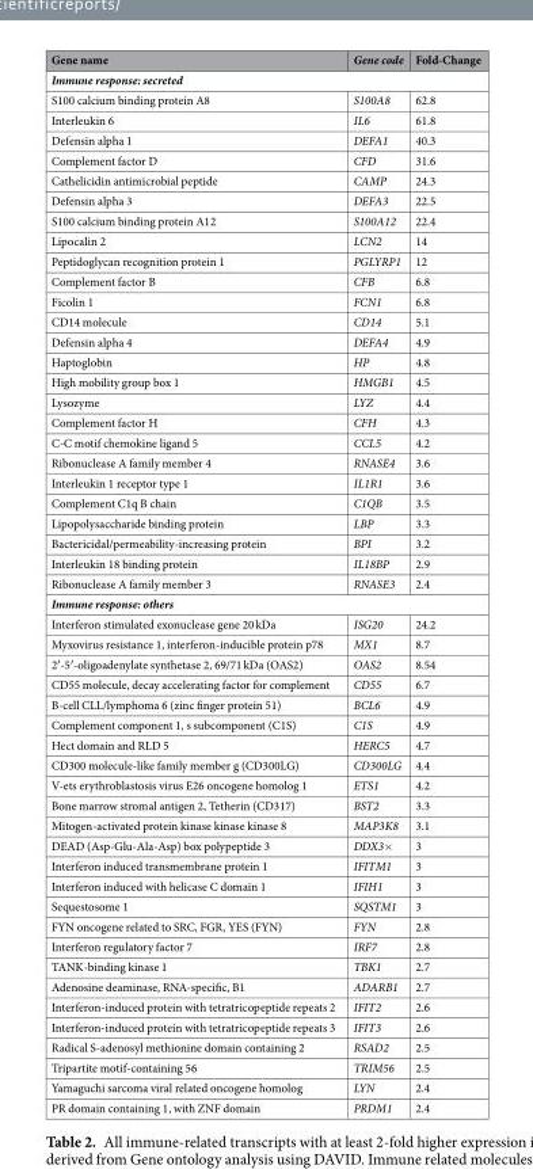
<table><thead><tr><td>Gene name</td><td>Gene code</td><td>Fold-Change</td></tr></thead><tbody><tr><td colspan="3">Immune response: secreted</td></tr><tr><td>S100 calcium binding protein A8</td><td>S100A8</td><td>62.8</td></tr><tr><td>Interleukin 6</td><td>IL6</td><td>61.8</td></tr><tr><td>Defensin alpha 1</td><td>DEFA1</td><td>40.3</td></tr><tr><td>Complement factor D</td><td>CFD</td><td>31.6</td></tr><tr><td>Cathelicidin antimicrobial peptide</td><td>CAMP</td><td>24.3</td></tr><tr><td>Defensin alpha 3</td><td>DEFA3</td><td>22.5</td></tr><tr><td>S100 calcium binding protein A12</td><td>S100A12</td><td>22.4</td></tr><tr><td>Lipocalin 2</td><td>LCN2</td><td>14</td></tr><tr><td>Peptidoglycan recognition protein 1</td><td>PGLYRP1</td><td>12</td></tr><tr><td>Complement factor B</td><td>CFB</td><td>6.8</td></tr><tr><td>Ficolin 1</td><td>FCN1</td><td>6.8</td></tr><tr><td>CD14 molecule</td><td>CD14</td><td>5.1</td></tr><tr><td>Defensin alpha 4</td><td>DEFA4</td><td>4.9</td></tr><tr><td>Haptoglobin</td><td>HP</td><td>4.8</td></tr><tr><td>High mobility group box 1</td><td>HMGB1</td><td>4.5</td></tr><tr><td>Lysozyme</td><td>LYZ</td><td>4.4</td></tr><tr><td>Complement factor H</td><td>CFH</td><td>4.3</td></tr><tr><td>C-C motif chemokine ligand 5</td><td>CCL5</td><td>4.2</td></tr><tr><td>Ribonuclease A family member 4</td><td>RNASE4</td><td>3.6</td></tr><tr><td>Interleukin 1 receptor type 1</td><td>IL1R1</td><td>3.6</td></tr><tr><td>Complement C1q B chain</td><td>C1QB</td><td>3.5</td></tr><tr><td>Lipopolysaccharide binding protein</td><td>LBP</td><td>3.3</td></tr><tr><td>Bactericidal/permeability-increasing protein</td><td>BPI</td><td>3.2</td></tr><tr><td>Interleukin 18 binding protein</td><td>IL18BP</td><td>2.9</td></tr><tr><td>Ribonuclease A family member 3</td><td>RNASE3</td><td>2.4</td></tr><tr><td colspan="3">Immune response: others</td></tr><tr><td>Interferon stimulated exonuclease gene 20 kDa</td><td>ISG20</td><td>24.2</td></tr><tr><td>Myxovirus resistance 1, interferon-inducible protein p78</td><td>MX1</td><td>8.7</td></tr><tr><td>2′-5′-oligoadenylate synthetase 2, 69/71 kDa (OAS2)</td><td>OAS2</td><td>8.54</td></tr><tr><td>CD55 molecule, decay accelerating factor for complement</td><td>CD55</td><td>6.7</td></tr><tr><td>B-cell CLL/lymphoma 6 (zinc finger protein 51)</td><td>BCL6</td><td>4.9</td></tr><tr><td>Complement component 1, s subcomponent (C1S)</td><td>C1S</td><td>4.9</td></tr><tr><td>Hect domain and RLD 5</td><td>HERC5</td><td>4.7</td></tr><tr><td>CD300 molecule-like family member g (CD300LG)</td><td>CD300LG</td><td>4.4</td></tr><tr><td>V-ets erythroblastosis virus E26 oncogene homolog 1</td><td>ETS1</td><td>4.2</td></tr><tr><td>Bone marrow stromal antigen 2, Tetherin (CD317)</td><td>BST2</td><td>3.3</td></tr><tr><td>Mitogen-activated protein kinase kinase kinase 8</td><td>MAP3K8</td><td>3.1</td></tr><tr><td>DEAD (Asp-Glu-Ala-Asp) box polypeptide 3</td><td>DDX3×</td><td>3</td></tr><tr><td>Interferon induced transmembrane protein 1</td><td>IFITM1</td><td>3</td></tr><tr><td>Interferon induced with helicase C domain 1</td><td>IFIH1</td><td>3</td></tr><tr><td>Sequestosome 1</td><td>SQSTM1</td><td>3</td></tr><tr><td>FYN oncogene related to SRC, FGR, YES (FYN)</td><td>FYN</td><td>2.8</td></tr><tr><td>Interferon regulatory factor 7</td><td>IRF7</td><td>2.8</td></tr><tr><td>TANK-binding kinase 1</td><td>TBK1</td><td>2.7</td></tr><tr><td>Adenosine deaminase, RNA-specific, B1</td><td>ADARB1</td><td>2.7</td></tr><tr><td>Interferon-induced protein with tetratricopeptide repeats 2</td><td>IFIT2</td><td>2.6</td></tr><tr><td>Interferon-induced protein with tetratricopeptide repeats 3</td><td>IFIT3</td><td>2.6</td></tr><tr><td>Radical S-adenosyl methionine domain containing 2</td><td>RSAD2</td><td>2.5</td></tr><tr><td>Tripartite motif-containing 56</td><td>TRIM56</td><td>2.5</td></tr><tr><td>Yamaguchi sarcoma viral related oncogene homolog</td><td>LYN</td><td>2.4</td></tr><tr><td>PR domain containing 1, with ZNF domain</td><td>PRDM1</td><td>2.4</td></tr></tbody></table>